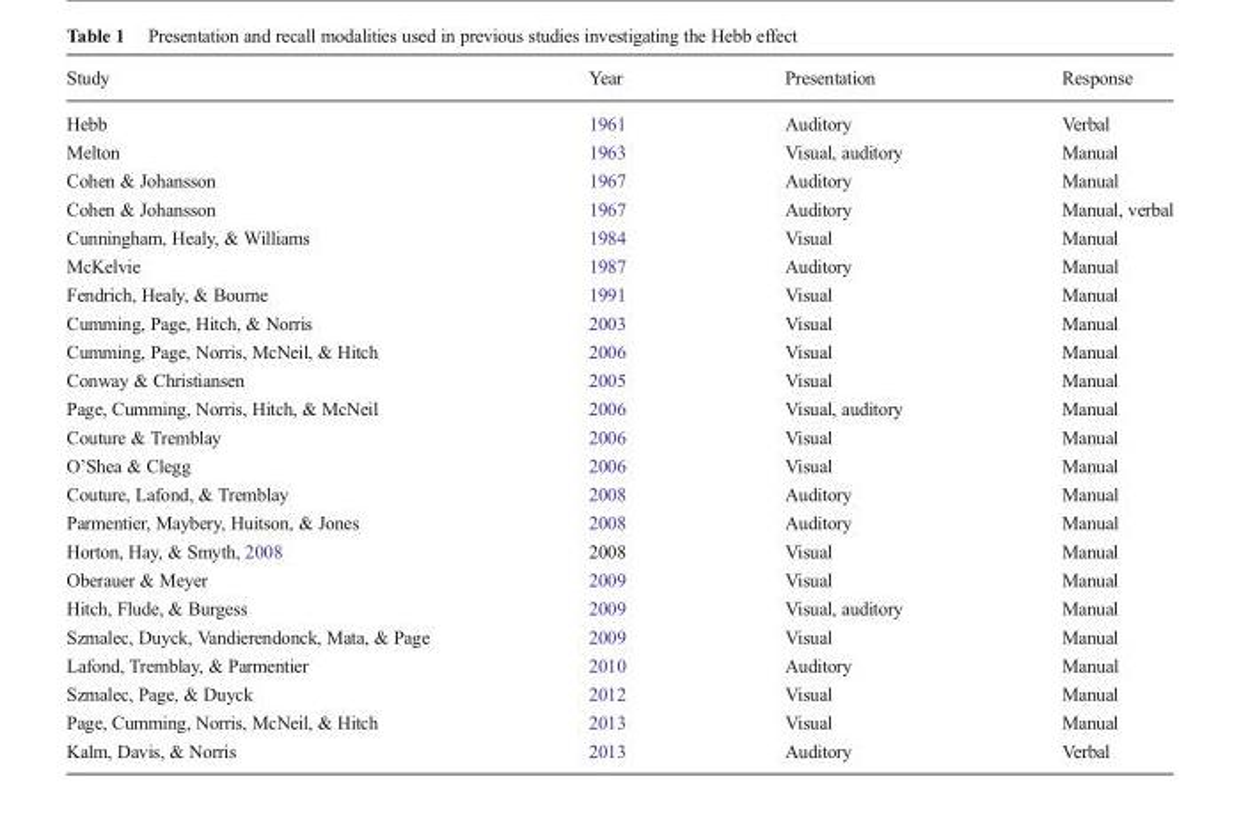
<table><thead><tr><td>Study</td><td>Year</td><td>Presentation</td><td>Response</td></tr></thead><tbody><tr><td>Hebb</td><td>1961</td><td>Auditory</td><td>Verbal</td></tr><tr><td>Melton</td><td>1963</td><td>Visual, auditory</td><td>Manual</td></tr><tr><td>Cohen &amp; Johansson</td><td>1967</td><td>Auditory</td><td>Manual</td></tr><tr><td>Cohen &amp; Johansson</td><td>1967</td><td>Auditory</td><td>Manual, verbal</td></tr><tr><td>Cunningham, Healy, &amp; Williams</td><td>1984</td><td>Visual</td><td>Manual</td></tr><tr><td>McKelvie</td><td>1987</td><td>Auditory</td><td>Manual</td></tr><tr><td>Fendrich, Healy, &amp; Bourne</td><td>1991</td><td>Visual</td><td>Manual</td></tr><tr><td>Cumming, Page, Hitch, &amp; Norris</td><td>2003</td><td>Visual</td><td>Manual</td></tr><tr><td>Cumming, Page, Norris, McNeil, &amp; Hitch</td><td>2006</td><td>Visual</td><td>Manual</td></tr><tr><td>Conway &amp; Christiansen</td><td>2005</td><td>Visual</td><td>Manual</td></tr><tr><td>Page, Cumming, Norris, Hitch, &amp; McNeil</td><td>2006</td><td>Visual, auditory</td><td>Manual</td></tr><tr><td>Couture &amp; Tremblay</td><td>2006</td><td>Visual</td><td>Manual</td></tr><tr><td>O’Shea &amp; Clegg</td><td>2006</td><td>Visual</td><td>Manual</td></tr><tr><td>Couture, Lafond, &amp; Tremblay</td><td>2008</td><td>Auditory</td><td>Manual</td></tr><tr><td>Parmentier, Maybery, Huitson, &amp; Jones</td><td>2008</td><td>Auditory</td><td>Manual</td></tr><tr><td>Horton, Hay, &amp; Smyth, 2008</td><td>2008</td><td>Visual</td><td>Manual</td></tr><tr><td>Oberauer &amp; Meyer</td><td>2009</td><td>Visual</td><td>Manual</td></tr><tr><td>Hitch, Flude, &amp; Burgess</td><td>2009</td><td>Visual, auditory</td><td>Manual</td></tr><tr><td>Szmalec, Duyck, Vandierendonck, Mata, &amp; Page</td><td>2009</td><td>Visual</td><td>Manual</td></tr><tr><td>Lafond, Tremblay, &amp; Parmentier</td><td>2010</td><td>Auditory</td><td>Manual</td></tr><tr><td>Szmalec, Page, &amp; Duyck</td><td>2012</td><td>Visual</td><td>Manual</td></tr><tr><td>Page, Cumming, Norris, McNeil, &amp; Hitch</td><td>2013</td><td>Visual</td><td>Manual</td></tr><tr><td>Kalm, Davis, &amp; Norris</td><td>2013</td><td>Auditory</td><td>Verbal</td></tr></tbody></table>